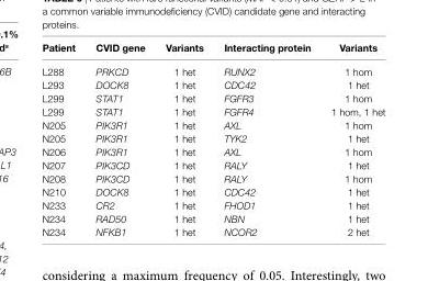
<table><thead><tr><td>Patient</td><td>cViD gene</td><td>Variants</td><td>interacting protein</td><td>Variants</td></tr></thead><tbody><tr><td>L288</td><td>PRKCD</td><td>1 het</td><td>RUNX2</td><td>1 hom</td></tr><tr><td>L293</td><td>DOCK8</td><td>1 het</td><td>CDC42</td><td>1 het</td></tr><tr><td>L299</td><td>STAT1</td><td>1 het</td><td>FGFR3</td><td>1 hom</td></tr><tr><td>L299</td><td>STAT1</td><td>1 het</td><td>FGFR4</td><td>1 hom, 1 het</td></tr><tr><td>N205</td><td>PIK3R1</td><td>1 het</td><td>AXL</td><td>1 hom</td></tr><tr><td>N205</td><td>PIK3R1</td><td>1 het</td><td>TYK2</td><td>1 het</td></tr><tr><td>N206</td><td>PIK3R1</td><td>1 het</td><td>AXL</td><td>1 hom</td></tr><tr><td>N207</td><td>PIK3CD</td><td>1 het</td><td>RALY</td><td>1 het</td></tr><tr><td>N208</td><td>PIK3CD</td><td>1 het</td><td>RALY</td><td>1 hom</td></tr><tr><td>N210</td><td>DOCK8</td><td>1 het</td><td>CDC42</td><td>1 het</td></tr><tr><td>N233</td><td>CR2</td><td>1 het</td><td>FHOD1</td><td>1 het</td></tr><tr><td>N234</td><td>RAD50</td><td>1 het</td><td>NBN</td><td>1 het</td></tr><tr><td>N234</td><td>NFKB1</td><td>1 het</td><td>NCOR2</td><td>2 het</td></tr></tbody></table>